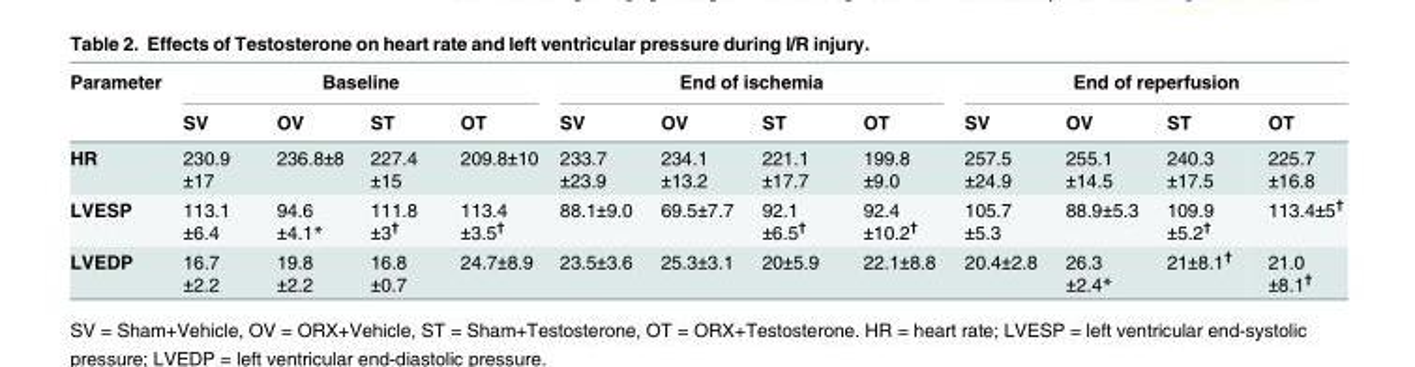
<table><thead><tr><td rowspan="2">Parameter</td><td colspan="4">Baseline</td><td colspan="4">End of ischemia</td><td colspan="4">End of reperfusion</td></tr><tr><td>SV</td><td>OV</td><td>ST</td><td>OT</td><td>SV</td><td>OV</td><td>ST</td><td>OT</td><td>SV</td><td>OV</td><td>ST</td><td>OT</td></tr></thead><tbody><tr><td>HR</td><td>230.9 ±17</td><td>236.8±8</td><td>227.4 ±15</td><td>209.8±10</td><td>233.7 ±23.9</td><td>234.1 ±13.2</td><td>221.1 ±17.7</td><td>199.8 ±9.0</td><td>257.5 ±24.9</td><td>255.1 ±14.5</td><td>240.3 ±17.5</td><td>225.7 ±16.8</td></tr><tr><td>LVESP</td><td>113.1 ±6.4</td><td>94.6 ±4.1*</td><td>111.8 ±3<sup>†</sup></td><td>113.4 ±3.5<sup>†</sup></td><td>88.1±9.0</td><td>69.5±7.7</td><td>92.1 ±6.5<sup>†</sup></td><td>92.4 ±10.2<sup>†</sup></td><td>105.7 ±5.3</td><td>88.9±5.3</td><td>109.9 ±5.2<sup>†</sup></td><td>113.4±5<sup>†</sup></td></tr><tr><td>LVEDP</td><td>16.7 ±2.2</td><td>19.8 ±2.2</td><td>16.8 ±0.7</td><td>24.7±8.9</td><td>23.5±3.6</td><td>25.3±3.1</td><td>20±5.9</td><td>22.1±8.8</td><td>20.4±2.8</td><td>26.3 ±2.4*</td><td>21±8.1<sup>†</sup></td><td>21.0 ±8.1<sup>†</sup></td></tr></tbody></table>